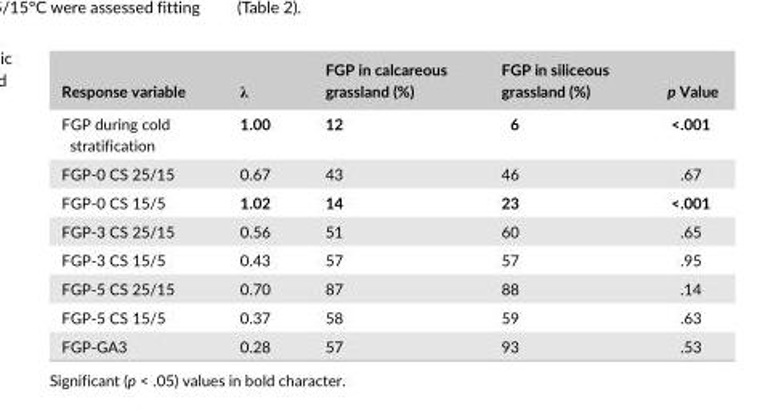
<table><thead><tr><td>Response variable</td><td>λ</td><td>FGP in calcareous grassland (%)</td><td>FGP in siliceous grassland (%)</td><td>p Value</td></tr></thead><tbody><tr><td>FGP during cold stratification</td><td>1.00</td><td>12</td><td>6</td><td>&lt;.001</td></tr><tr><td>FGP- 0 CS 25/15</td><td>0.67</td><td>43</td><td>46</td><td>.67</td></tr><tr><td>FGP- 0 CS 15/5</td><td>1.02</td><td>14</td><td>23</td><td>&lt;.001</td></tr><tr><td>FGP- 3 CS 25/15</td><td>0.56</td><td>51</td><td>60</td><td>.65</td></tr><tr><td>FGP- 3 CS 15/5</td><td>0.43</td><td>57</td><td>57</td><td>.95</td></tr><tr><td>FGP- 5 CS 25/15</td><td>0.70</td><td>87</td><td>88</td><td>.14</td></tr><tr><td>FGP- 5 CS 15/5</td><td>0.37</td><td>58</td><td>59</td><td>.63</td></tr><tr><td>FGP- GA3</td><td>0.28</td><td>57</td><td>93</td><td>.53</td></tr></tbody></table>